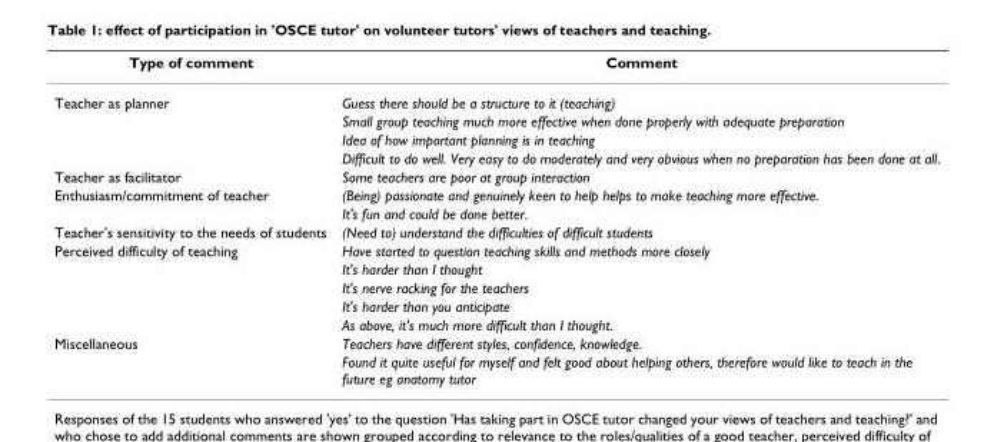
<table><thead><tr><td>Type of comment</td><td>Comment</td></tr></thead><tbody><tr><td rowspan="4">Teacher as planner</td><td>Guess there should be a structure to it (teaching)</td></tr><tr><td>Small group teaching much more effective when done properly with adequate preparation</td></tr><tr><td>Idea of how important planning is in teaching</td></tr><tr><td>Difficult to do well. Very easy to do moderately and very obvious when no preparation has been done at all.</td></tr><tr><td>Teacher as facilitator</td><td>Some teachers are poor at group interaction</td></tr><tr><td rowspan="2">Enthusiasm/commitment of teacher</td><td>(Being) passionate and genuinely keen to help helps to make teaching more effective.</td></tr><tr><td>It&#x27;s fun and could be done better.</td></tr><tr><td>Teacher&#x27;s sensitivity to the needs of students</td><td>(Need to) understand the difficulties of difficult students</td></tr><tr><td rowspan="5">Perceived difficulty of teaching</td><td>Have started to question teaching skills and methods more closely</td></tr><tr><td>It&#x27;s harder than I thought</td></tr><tr><td>It&#x27;s nerve racking for the teachers</td></tr><tr><td>It&#x27;s harder than you anticipate</td></tr><tr><td>As above, it&#x27;s much more difficult than I thought.</td></tr><tr><td rowspan="2">Miscellaneous</td><td>Teachers have different styles, confidence, knowledge.</td></tr><tr><td>Found it quite useful for myself and felt good about helping others, therefore would like to teach in the future eg anatomy tutor</td></tr></tbody></table>